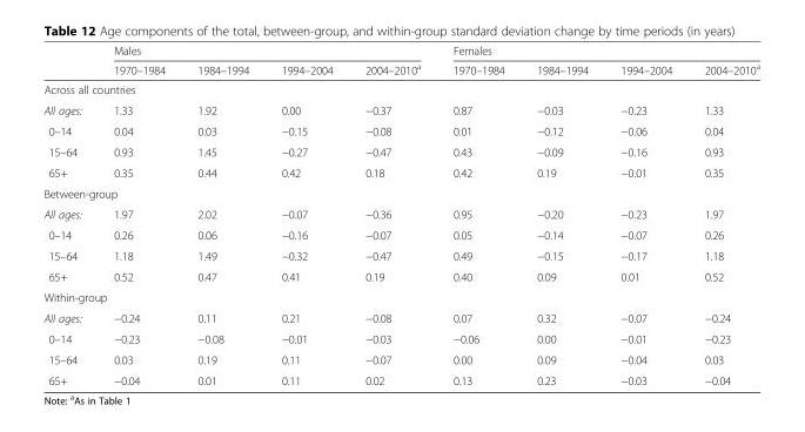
<table><thead><tr><td rowspan="2"></td><td colspan="4">Males</td><td colspan="4">Females</td></tr><tr><td>1970–1984</td><td>1984–1994</td><td>1994–2004</td><td>2004–2010<sup>a</sup></td><td>1970–1984</td><td>1984–1994</td><td>1994–2004</td><td>2004–2010<sup>a</sup></td></tr></thead><tbody><tr><td colspan="9">Across all countries</td></tr><tr><td>All ages:</td><td>1.33</td><td>1.92</td><td>0.00</td><td>−0.37</td><td>0.87</td><td>−0.03</td><td>−0.23</td><td>1.33</td></tr><tr><td>0–14</td><td>0.04</td><td>0.03</td><td>−0.15</td><td>−0.08</td><td>0.01</td><td>−0.12</td><td>−0.06</td><td>0.04</td></tr><tr><td>15–64</td><td>0.93</td><td>1.45</td><td>−0.27</td><td>−0.47</td><td>0.43</td><td>−0.09</td><td>−0.16</td><td>0.93</td></tr><tr><td>65+</td><td>0.35</td><td>0.44</td><td>0.42</td><td>0.18</td><td>0.42</td><td>0.19</td><td>−0.01</td><td>0.35</td></tr><tr><td colspan="9">Between-group</td></tr><tr><td>All ages:</td><td>1.97</td><td>2.02</td><td>−0.07</td><td>−0.36</td><td>0.95</td><td>−0.20</td><td>−0.23</td><td>1.97</td></tr><tr><td>0–14</td><td>0.26</td><td>0.06</td><td>−0.16</td><td>−0.07</td><td>0.05</td><td>−0.14</td><td>−0.07</td><td>0.26</td></tr><tr><td>15–64</td><td>1.18</td><td>1.49</td><td>−0.32</td><td>−0.47</td><td>0.49</td><td>−0.15</td><td>−0.17</td><td>1.18</td></tr><tr><td>65+</td><td>0.52</td><td>0.47</td><td>0.41</td><td>0.19</td><td>0.40</td><td>0.09</td><td>0.01</td><td>0.52</td></tr><tr><td colspan="9">Within-group</td></tr><tr><td>All ages:</td><td>−0.24</td><td>0.11</td><td>0.21</td><td>−0.08</td><td>0.07</td><td>0.32</td><td>−0.07</td><td>−0.24</td></tr><tr><td>0–14</td><td>−0.23</td><td>−0.08</td><td>−0.01</td><td>−0.03</td><td>−0.06</td><td>0.00</td><td>−0.01</td><td>−0.23</td></tr><tr><td>15–64</td><td>0.03</td><td>0.19</td><td>0.11</td><td>−0.07</td><td>0.00</td><td>0.09</td><td>−0.04</td><td>0.03</td></tr><tr><td>65+</td><td>−0.04</td><td>0.01</td><td>0.11</td><td>0.02</td><td>0.13</td><td>0.23</td><td>−0.03</td><td>−0.04</td></tr></tbody></table>